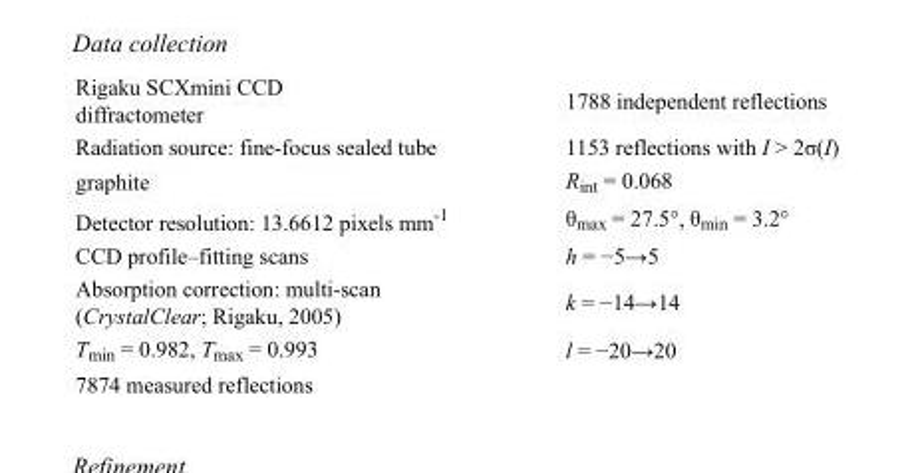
<table><tbody><tr><td>Rigaku SCXmini CCD diffractometer</td><td>1788 independent reflections</td></tr><tr><td>Radiation source: fine-focus sealed tube</td><td>1153 reflections with I &gt; 2σ(I)</td></tr><tr><td>graphite</td><td>R<sub>int</sub> = 0.068</td></tr><tr><td>Detector resolution: 13.6612 pixels mm<sup>-1</sup></td><td>θ<sub>max</sub> = 27.5°, θ<sub>min</sub> = 3.2°</td></tr><tr><td>CCD profile–fitting scans</td><td>h = −5→5</td></tr><tr><td>Absorption correction: multi-scan (CrystalClear; Rigaku, 2005)</td><td>k = −14→14</td></tr><tr><td>T<sub>min</sub> = 0.982, T<sub>max</sub> = 0.993</td><td>l = −20→20</td></tr><tr><td>7874 measured reflections</td><td></td></tr></tbody></table>